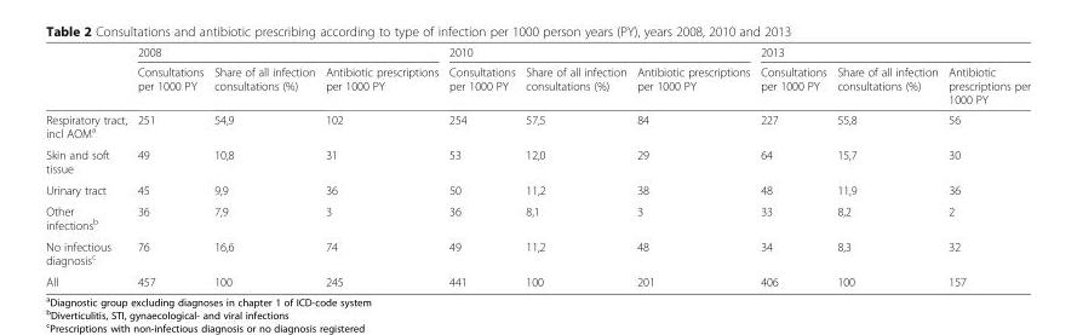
<table><thead><tr><td rowspan="2"></td><td colspan="3">2008</td><td colspan="3">2010</td><td colspan="3">2013</td></tr><tr><td>Consultations per 1000 PY</td><td>Share of all infection consultations (%)</td><td>Antibiotic prescriptions per 1000 PY</td><td>Consultations per 1000 PY</td><td>Share of all infection consultations (%)</td><td>Antibiotic prescriptions per 1000 PY</td><td>Consultations per 1000 PY</td><td>Share of all infection consultations (%)</td><td>Antibiotic prescriptions per 1000 PY</td></tr></thead><tbody><tr><td>Respiratory tract, incl AOM<sup>a</sup></td><td>251</td><td>54,9</td><td>102</td><td>254</td><td>57,5</td><td>84</td><td>227</td><td>55,8</td><td>56</td></tr><tr><td>Skin and soft tissue</td><td>49</td><td>10,8</td><td>31</td><td>53</td><td>12,0</td><td>29</td><td>64</td><td>15,7</td><td>30</td></tr><tr><td>Urinary tract</td><td>45</td><td>9,9</td><td>36</td><td>50</td><td>11,2</td><td>38</td><td>48</td><td>11,9</td><td>36</td></tr><tr><td>Other infections<sup>b</sup></td><td>36</td><td>7,9</td><td>3</td><td>36</td><td>8,1</td><td>3</td><td>33</td><td>8,2</td><td>2</td></tr><tr><td>No infectious diagnosis<sup>c</sup></td><td>76</td><td>16,6</td><td>74</td><td>49</td><td>11,2</td><td>48</td><td>34</td><td>8,3</td><td>32</td></tr><tr><td>All</td><td>457</td><td>100</td><td>245</td><td>441</td><td>100</td><td>201</td><td>406</td><td>100</td><td>157</td></tr></tbody></table>